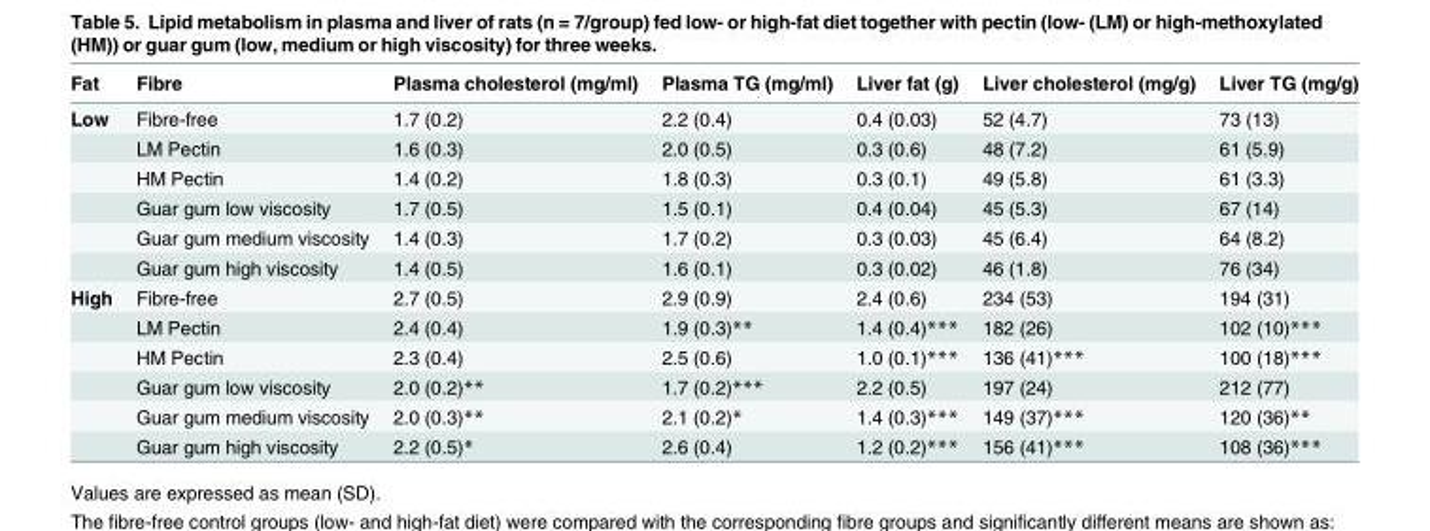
<table><thead><tr><td>Fat</td><td>Fibre</td><td>Plasma cholesterol (mg/ml)</td><td>Plasma TG (mg/ml)</td><td>Liver fat (g)</td><td>Liver cholesterol (mg/g)</td><td>Liver TG (mg/g)</td></tr></thead><tbody><tr><td rowspan="6">Low</td><td>Fibre-free</td><td>1.7 (0.2)</td><td>2.2 (0.4)</td><td>0.4 (0.03)</td><td>52 (4.7)</td><td>73 (13)</td></tr><tr><td>LM Pectin</td><td>1.6 (0.3)</td><td>2.0 (0.5)</td><td>0.3 (0.6)</td><td>48 (7.2)</td><td>61 (5.9)</td></tr><tr><td>HM Pectin</td><td>1.4 (0.2)</td><td>1.8 (0.3)</td><td>0.3 (0.1)</td><td>49 (5.8)</td><td>61 (3.3)</td></tr><tr><td>Guar gum low viscosity</td><td>1.7 (0.5)</td><td>1.5 (0.1)</td><td>0.4 (0.04)</td><td>45 (5.3)</td><td>67 (14)</td></tr><tr><td>Guar gum medium viscosity</td><td>1.4 (0.3)</td><td>1.7 (0.2)</td><td>0.3 (0.03)</td><td>45 (6.4)</td><td>64 (8.2)</td></tr><tr><td>Guar gum high viscosity</td><td>1.4 (0.5)</td><td>1.6 (0.1)</td><td>0.3 (0.02)</td><td>46 (1.8)</td><td>76 (34)</td></tr><tr><td rowspan="6">High</td><td>Fibre-free</td><td>2.7 (0.5)</td><td>2.9 (0.9)</td><td>2.4 (0.6)</td><td>234 (53)</td><td>194 (31)</td></tr><tr><td>LM Pectin</td><td>2.4 (0.4)</td><td>1.9 (0.3)**</td><td>1.4 (0.4)***</td><td>182 (26)</td><td>102 (10)***</td></tr><tr><td>HM Pectin</td><td>2.3 (0.4)</td><td>2.5 (0.6)</td><td>1.0 (0.1)***</td><td>136 (41)***</td><td>100 (18)***</td></tr><tr><td>Guar gum low viscosity</td><td>2.0 (0.2)**</td><td>1.7 (0.2)***</td><td>2.2 (0.5)</td><td>197 (24)</td><td>212 (77)</td></tr><tr><td>Guar gum medium viscosity</td><td>2.0 (0.3)**</td><td>2.1 (0.2)*</td><td>1.4 (0.3)***</td><td>149 (37)***</td><td>120 (36)**</td></tr><tr><td>Guar gum high viscosity</td><td>2.2 (0.5)*</td><td>2.6 (0.4)</td><td>1.2 (0.2)***</td><td>156 (41)***</td><td>108 (36)***</td></tr></tbody></table>